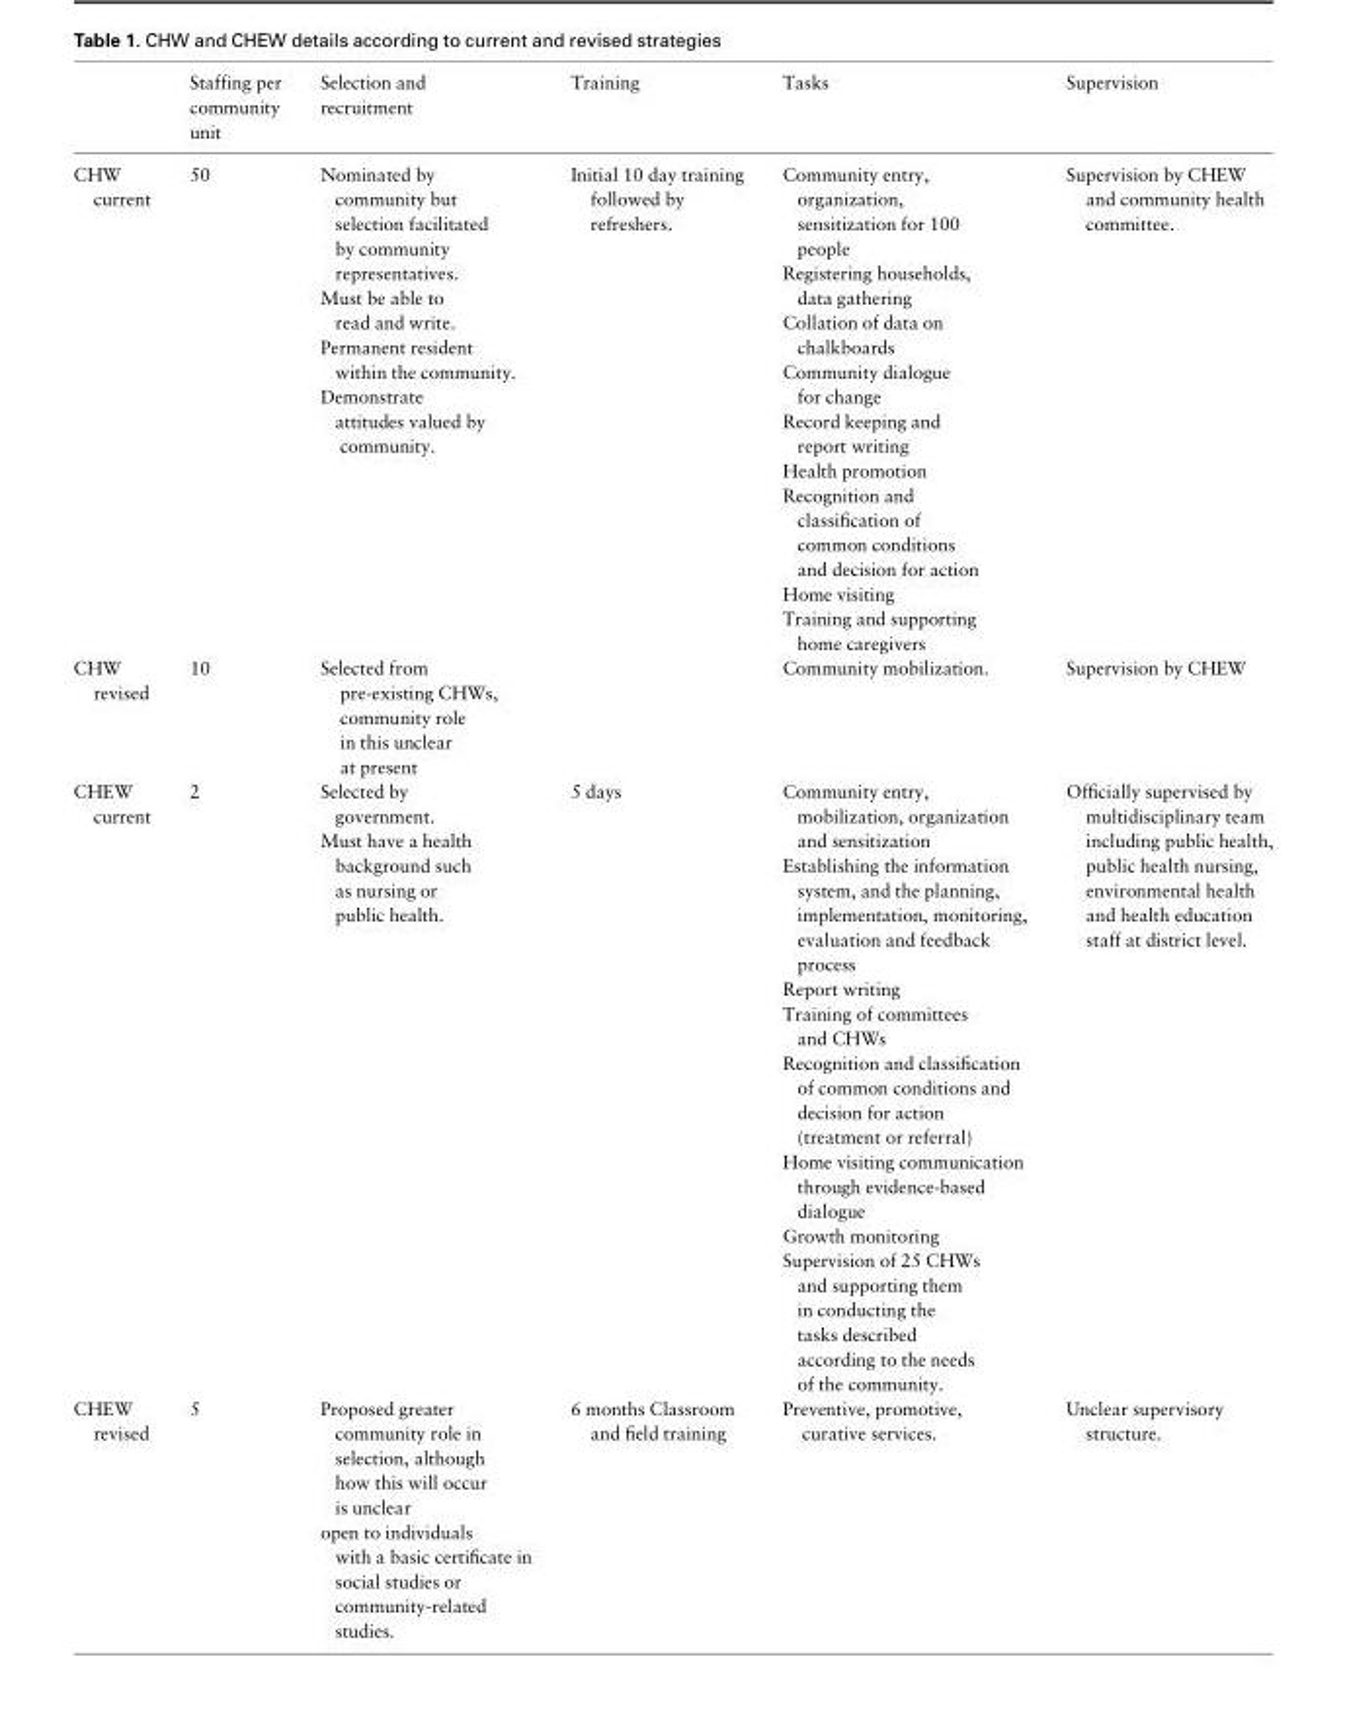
<table><thead><tr><td></td><td>Staffing per community unit</td><td>Selection and recruitment</td><td>Training</td><td>Tasks</td><td>Supervision</td></tr></thead><tbody><tr><td>CHW current</td><td>50</td><td>Nominated by community but selection facilitated by community representatives. Must be able to read and write. Permanent resident within the community. Demonstrate attitudes valued by community.</td><td>Initial 10 day training followed by refreshers.</td><td>Community entry, organization, sensitization for 100 people Registering households, data gathering Collation of data on chalkboards Community dialogue for change Record keeping and report writing Health promotion Recognition and classification of common conditions and decision for action Home visiting Training and supporting home caregivers</td><td>Supervision by CHEW and community health committee.</td></tr><tr><td>CHW revised</td><td>10</td><td>Selected from pre-existing CHWs, community role in this unclear at present</td><td></td><td>Community mobilization.</td><td>Supervision by CHEW</td></tr><tr><td>CHEW current</td><td>2</td><td>Selected by government. Must have a health background such as nursing or public health.</td><td>5 days</td><td>Community entry, mobilization, organization and sensitization Establishing the information system, and the planning, implementation, monitoring, evaluation and feedback process Report writing Training of committees and CHWs Recognition and classification of common conditions and decision for action (treatment or referral) Home visiting communication through evidence-based dialogue Growth monitoring Supervision of 25 CHWs and supporting them in conducting the tasks described according to the needs of the community.</td><td>Officially supervised by multidisciplinary team including public health, public health nursing, environmental health and health education staff at district level.</td></tr><tr><td>CHEW revised</td><td>5</td><td>Proposed greater community role in selection, although how this will occur is unclear open to individuals with a basic certificate in social studies or community-related studies.</td><td>6 months Classroom and field training</td><td>Preventive, promotive, curative services.</td><td>Unclear supervisory structure.</td></tr></tbody></table>